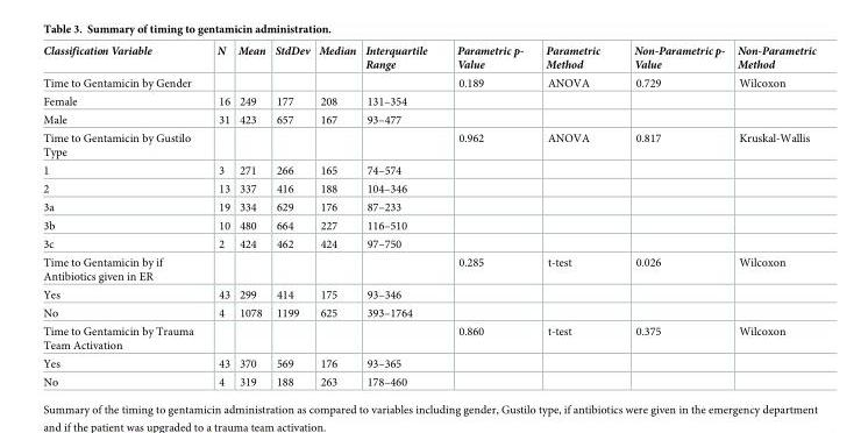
<table><thead><tr><td>Classification Variable</td><td>N</td><td>Mean</td><td>StdDev</td><td>Median</td><td>Interquartile Range</td><td>Parametric p- Value</td><td>Parametric Method</td><td>Non-Parametric p- Value</td><td>Non-Parametric Method</td></tr></thead><tbody><tr><td>Time to Gentamicin by Gender</td><td></td><td></td><td></td><td></td><td></td><td>0.189</td><td>ANOVA</td><td>0.729</td><td>Wilcoxon</td></tr><tr><td>Female</td><td>16</td><td>249</td><td>177</td><td>208</td><td>131–354</td><td></td><td></td><td></td><td></td></tr><tr><td>Male</td><td>31</td><td>423</td><td>657</td><td>167</td><td>93–477</td><td></td><td></td><td></td><td></td></tr><tr><td>Time to Gentamicin by Gustilo Type</td><td></td><td></td><td></td><td></td><td></td><td>0.962</td><td>ANOVA</td><td>0.817</td><td>Kruskal-Wallis</td></tr><tr><td>1</td><td>3</td><td>271</td><td>266</td><td>165</td><td>74–574</td><td></td><td></td><td></td><td></td></tr><tr><td>2</td><td>13</td><td>337</td><td>416</td><td>188</td><td>104–346</td><td></td><td></td><td></td><td></td></tr><tr><td>3a</td><td>19</td><td>334</td><td>629</td><td>176</td><td>87–233</td><td></td><td></td><td></td><td></td></tr><tr><td>3b</td><td>10</td><td>480</td><td>664</td><td>227</td><td>116–510</td><td></td><td></td><td></td><td></td></tr><tr><td>3c</td><td>2</td><td>424</td><td>462</td><td>424</td><td>97–750</td><td></td><td></td><td></td><td></td></tr><tr><td>Time to Gentamicin by if Antibiotics given in ER</td><td></td><td></td><td></td><td></td><td></td><td>0.285</td><td>t-test</td><td>0.026</td><td>Wilcoxon</td></tr><tr><td>Yes</td><td>43</td><td>299</td><td>414</td><td>175</td><td>93–346</td><td></td><td></td><td></td><td></td></tr><tr><td>No</td><td>4</td><td>1078</td><td>1199</td><td>625</td><td>393–1764</td><td></td><td></td><td></td><td></td></tr><tr><td>Time to Gentamicin by Trauma Team Activation</td><td></td><td></td><td></td><td></td><td></td><td>0.860</td><td>t-test</td><td>0.375</td><td>Wilcoxon</td></tr><tr><td>Yes</td><td>43</td><td>370</td><td>569</td><td>176</td><td>93–365</td><td></td><td></td><td></td><td></td></tr><tr><td>No</td><td>4</td><td>319</td><td>188</td><td>263</td><td>178–460</td><td></td><td></td><td></td><td></td></tr></tbody></table>